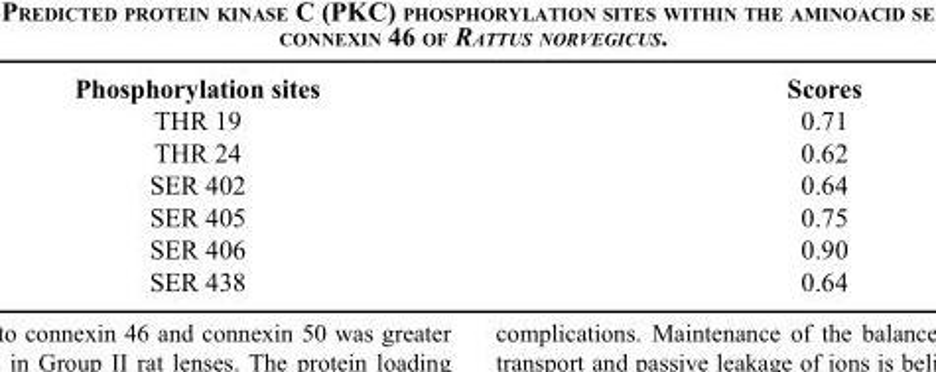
<table><thead><tr><td>Phosphorylation sites</td><td>Scores</td></tr></thead><tbody><tr><td>THR 19</td><td>0.71</td></tr><tr><td>THR 24</td><td>0.62</td></tr><tr><td>SER 402</td><td>0.64</td></tr><tr><td>SER 405</td><td>0.75</td></tr><tr><td>SER 406</td><td>0.90</td></tr><tr><td>SER 438</td><td>0.64</td></tr></tbody></table>